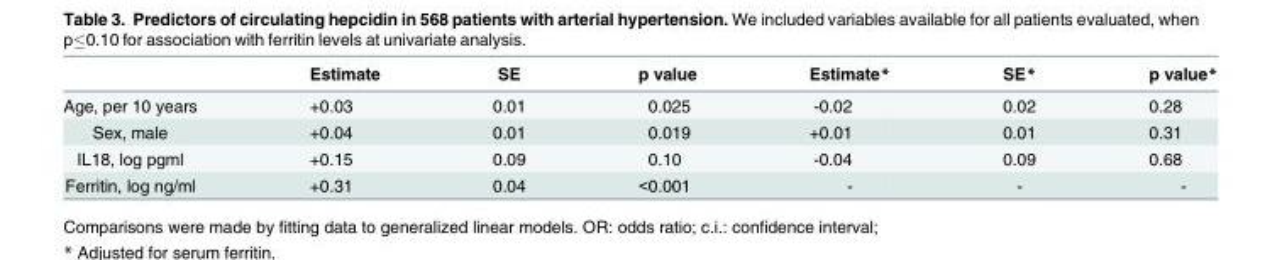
<table><thead><tr><td></td><td>Estimate</td><td>SE</td><td>p value</td><td>Estimate*</td><td>SE*</td><td>p value*</td></tr></thead><tbody><tr><td>Age, per 10 years</td><td>+0.03</td><td>0.01</td><td>0.025</td><td>-0.02</td><td>0.02</td><td>0.28</td></tr><tr><td>Sex, male</td><td>+0.04</td><td>0.01</td><td>0.019</td><td>+0.01</td><td>0.01</td><td>0.31</td></tr><tr><td>IL18, log pgml</td><td>+0.15</td><td>0.09</td><td>0.10</td><td>-0.04</td><td>0.09</td><td>0.68</td></tr><tr><td>Ferritin, log ng/ml</td><td>+0.31</td><td>0.04</td><td>&lt;0.001</td><td>-</td><td>-</td><td>-</td></tr></tbody></table>